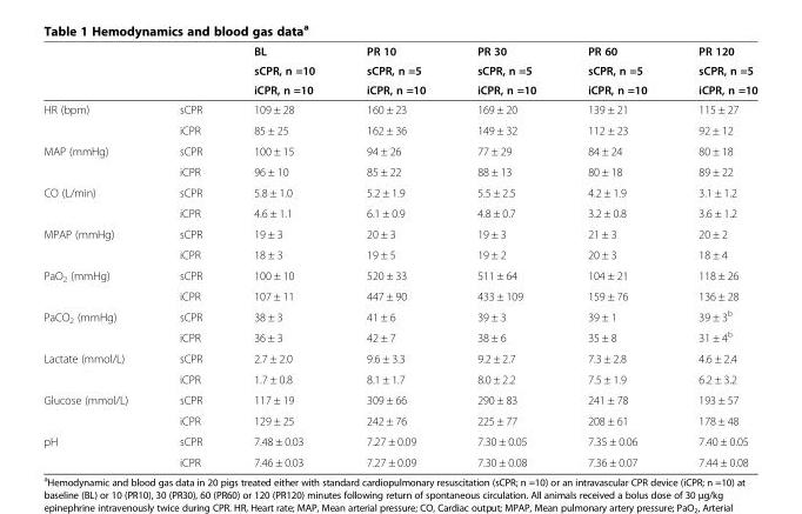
<table><thead><tr><td rowspan="3"></td><td rowspan="3"></td><td rowspan="3">BL sCPR, n =10 iCPR, n =10</td><td rowspan="3">PR 10 sCPR, n =5 iCPR, n =10</td><td rowspan="3">PR 30 sCPR, n =5 iCPR, n =10</td><td rowspan="3">PR 60 sCPR, n =5 iCPR, n =10</td><td rowspan="3">PR 120 sCPR, n =5 iCPR, n =10</td></tr><tr></tr><tr></tr></thead><tbody><tr><td rowspan="2">HR (bpm)</td><td>sCPR</td><td>109 ± 28</td><td>160 ± 23</td><td>169 ± 20</td><td>139 ± 21</td><td>115 ± 27</td></tr><tr><td>iCPR</td><td>85 ± 25</td><td>162 ± 36</td><td>149 ± 32</td><td>112 ± 23</td><td>92 ± 12</td></tr><tr><td rowspan="2">MAP (mmHg)</td><td>sCPR</td><td>100 ± 15</td><td>94 ± 26</td><td>77 ± 29</td><td>84 ± 24</td><td>80 ± 18</td></tr><tr><td>iCPR</td><td>96 ± 10</td><td>85 ± 22</td><td>88 ± 13</td><td>80 ± 18</td><td>89 ± 22</td></tr><tr><td rowspan="2">CO (L/min)</td><td>sCPR</td><td>5.8 ± 1.0</td><td>5.2 ± 1.9</td><td>5.5 ± 2.5</td><td>4.2 ± 1.9</td><td>3.1 ± 1.2</td></tr><tr><td>iCPR</td><td>4.6 ± 1.1</td><td>6.1 ± 0.9</td><td>4.8 ± 0.7</td><td>3.2 ± 0.8</td><td>3.6 ± 1.2</td></tr><tr><td rowspan="2">MPAP (mmHg)</td><td>sCPR</td><td>19 ± 3</td><td>20 ± 3</td><td>19 ± 3</td><td>21 ± 3</td><td>20 ± 2</td></tr><tr><td>iCPR</td><td>18 ± 3</td><td>19 ± 5</td><td>19 ± 2</td><td>20 ± 3</td><td>18 ± 4</td></tr><tr><td rowspan="2">PaO<sub>2</sub> (mmHg)</td><td>sCPR</td><td>100 ± 10</td><td>520 ± 33</td><td>511 ± 64</td><td>104 ± 21</td><td>118 ± 26</td></tr><tr><td>iCPR</td><td>107 ± 11</td><td>447 ± 90</td><td>433 ± 109</td><td>159 ± 76</td><td>136 ± 28</td></tr><tr><td rowspan="2">PaCO<sub>2</sub> (mmHg)</td><td>sCPR</td><td>38 ± 3</td><td>41 ± 6</td><td>39 ± 3</td><td>39 ± 1</td><td>39 ± 3<sup>b</sup></td></tr><tr><td>iCPR</td><td>36 ± 3</td><td>42 ± 7</td><td>38 ± 6</td><td>35 ± 8</td><td>31 ± 4<sup>b</sup></td></tr><tr><td rowspan="2">Lactate (mmol/L)</td><td>sCPR</td><td>2.7 ± 2.0</td><td>9.6 ± 3.3</td><td>9.2 ± 2.7</td><td>7.3 ± 2.8</td><td>4.6 ± 2.4</td></tr><tr><td>iCPR</td><td>1.7 ± 0.8</td><td>8.1 ± 1.7</td><td>8.0 ± 2.2</td><td>7.5 ± 1.9</td><td>6.2 ± 3.2</td></tr><tr><td rowspan="2">Glucose (mmol/L)</td><td>sCPR</td><td>117 ± 19</td><td>309 ± 66</td><td>290 ± 83</td><td>241 ± 78</td><td>193 ± 57</td></tr><tr><td>iCPR</td><td>129 ± 25</td><td>242 ± 76</td><td>225 ± 77</td><td>208 ± 61</td><td>178 ± 48</td></tr><tr><td rowspan="2">pH</td><td>sCPR</td><td>7.48 ± 0.03</td><td>7.27 ± 0.09</td><td>7.30 ± 0.05</td><td>7.35 ± 0.06</td><td>7.40 ± 0.05</td></tr><tr><td>iCPR</td><td>7.46 ± 0.03</td><td>7.27 ± 0.09</td><td>7.30 ± 0.08</td><td>7.36 ± 0.07</td><td>7.44 ± 0.08</td></tr></tbody></table>